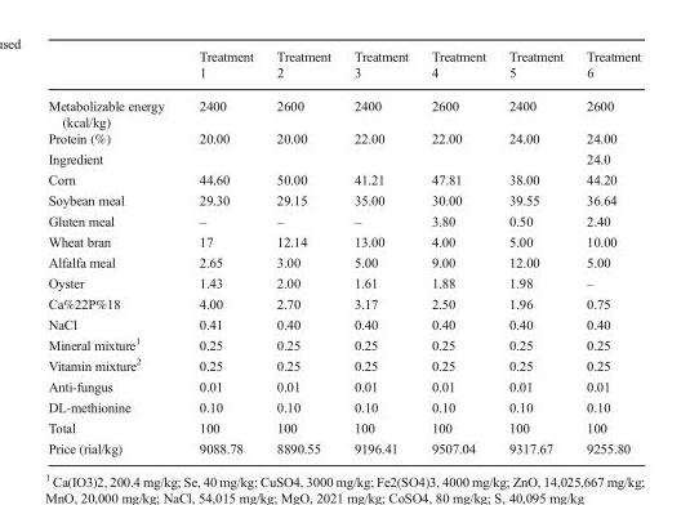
<table><thead><tr><td></td><td>Treatment 1</td><td>Treatment 2</td><td>Treatment 3</td><td>Treatment 4</td><td>Treatment 5</td><td>Treatment 6</td></tr></thead><tbody><tr><td>Metabolizable energy (kcal/kg)</td><td>2400</td><td>2600</td><td>2400</td><td>2600</td><td>2400</td><td>2600</td></tr><tr><td>Protein (%)</td><td>20.00</td><td>20.00</td><td>22.00</td><td>22.00</td><td>24.00</td><td>24.00</td></tr><tr><td colspan="6">Ingredient</td><td>24.0</td></tr><tr><td>Corn</td><td>44.60</td><td>50.00</td><td>41.21</td><td>47.81</td><td>38.00</td><td>44.20</td></tr><tr><td>Soybean meal</td><td>29.30</td><td>29.15</td><td>35.00</td><td>30.00</td><td>39.55</td><td>36.64</td></tr><tr><td>Gluten meal</td><td>–</td><td>–</td><td>–</td><td>3.80</td><td>0.50</td><td>2.40</td></tr><tr><td>Wheat bran</td><td>17</td><td>12.14</td><td>13.00</td><td>4.00</td><td>5.00</td><td>10.00</td></tr><tr><td>Alfalfa meal</td><td>2.65</td><td>3.00</td><td>5.00</td><td>9.00</td><td>12.00</td><td>5.00</td></tr><tr><td>Oyster</td><td>1.43</td><td>2.00</td><td>1.61</td><td>1.88</td><td>1.98</td><td>–</td></tr><tr><td>Ca%22P%18</td><td>4.00</td><td>2.70</td><td>3.17</td><td>2.50</td><td>1.96</td><td>0.75</td></tr><tr><td>NaCl</td><td>0.41</td><td>0.40</td><td>0.40</td><td>0.40</td><td>0.40</td><td>0.40</td></tr><tr><td>Mineral mixture<sup>1</sup></td><td>0.25</td><td>0.25</td><td>0.25</td><td>0.25</td><td>0.25</td><td>0.25</td></tr><tr><td>Vitamin mixture<sup>2</sup></td><td>0.25</td><td>0.25</td><td>0.25</td><td>0.25</td><td>0.25</td><td>0.25</td></tr><tr><td>Anti-fungus</td><td>0.01</td><td>0.01</td><td>0.01</td><td>0.01</td><td>0.01</td><td>0.01</td></tr><tr><td>DL-methionine</td><td>0.10</td><td>0.10</td><td>0.10</td><td>0.10</td><td>0.10</td><td>0.10</td></tr><tr><td>Total</td><td>100</td><td>100</td><td>100</td><td>100</td><td>100</td><td>100</td></tr><tr><td>Price (rial/kg)</td><td>9088.78</td><td>8890.55</td><td>9196.41</td><td>9507.04</td><td>9317.67</td><td>9255.80</td></tr></tbody></table>